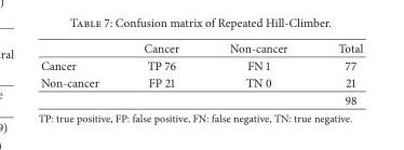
<table><thead><tr><td></td><td>Cancer</td><td>Non-cancer</td><td>Total</td></tr></thead><tbody><tr><td>Cancer</td><td>TP 76</td><td>FN 1</td><td>77</td></tr><tr><td rowspan="2">Non-cancer</td><td>FP 21</td><td>TN 0</td><td>21</td></tr><tr><td></td><td></td><td>98</td></tr></tbody></table>